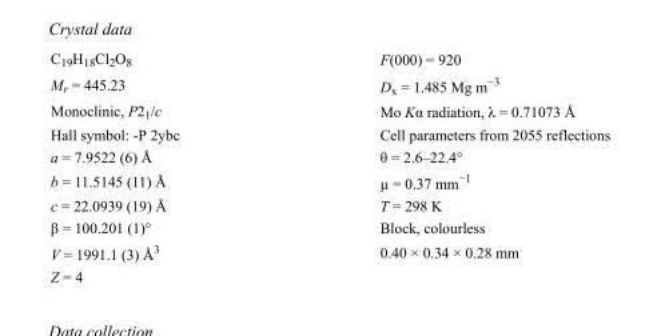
<table><tbody><tr><td>C<sub>19</sub>H<sub>18</sub>Cl<sub>2</sub>O<sub>8</sub></td><td>F(000) = 920</td></tr><tr><td>M<sub>r</sub> = 445.23</td><td>D<sub>x</sub> = 1.485 Mg m<sup>−3</sup></td></tr><tr><td>Monoclinic, P2<sub>1</sub>/c</td><td>Mo Kα radiation, λ = 0.71073 Å</td></tr><tr><td>Hall symbol: -P 2ybc</td><td>Cell parameters from 2055 reflections</td></tr><tr><td>a = 7.9522 (6) Å</td><td>θ = 2.6–22.4°</td></tr><tr><td>b = 11.5145 (11) Å</td><td>µ = 0.37 mm<sup>−1</sup></td></tr><tr><td>c = 22.0939 (19) Å</td><td>T = 298 K</td></tr><tr><td>β = 100.201 (1)°</td><td>Block, colourless</td></tr><tr><td>V = 1991.1 (3) Å<sup>3</sup></td><td>0.40 × 0.34 × 0.28 mm</td></tr><tr><td>Z = 4</td><td></td></tr></tbody></table>